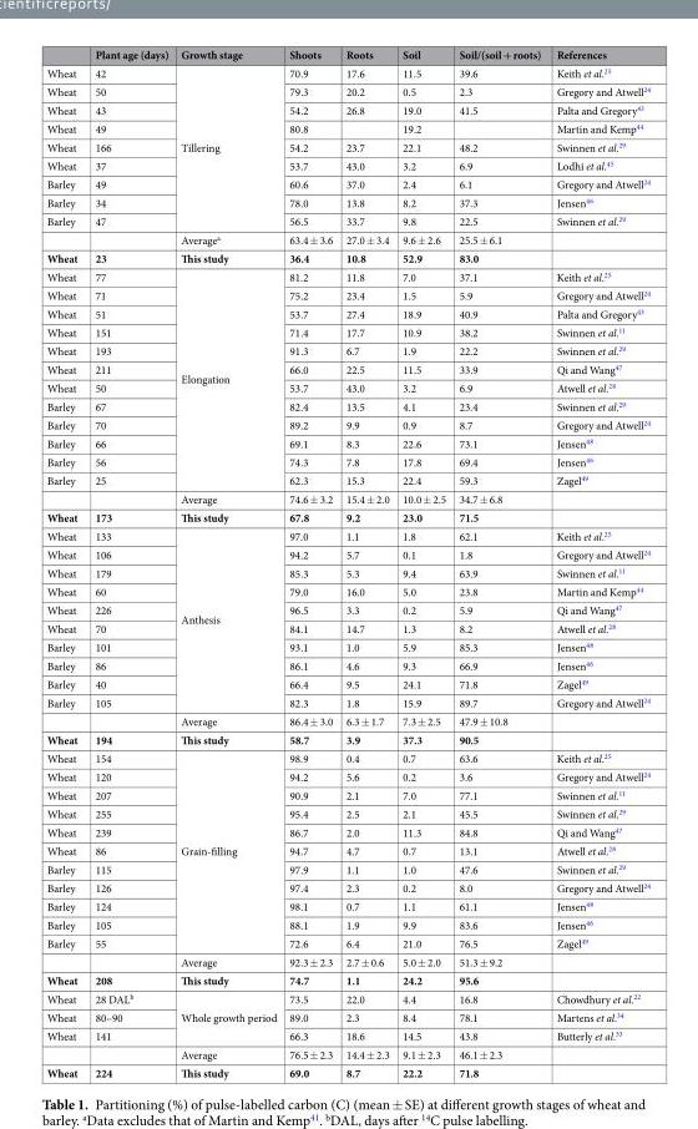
<table><thead><tr><td></td><td>Plant age (days)</td><td>Growth stage</td><td>Shoots</td><td>Roots</td><td>Soil</td><td>Soil/(soil + roots)</td><td>References</td></tr></thead><tbody><tr><td>Wheat</td><td>42</td><td rowspan="9">Tillering</td><td>70.9</td><td>17.6</td><td>11.5</td><td>39.6</td><td>Keith et al.<sup>25</sup></td></tr><tr><td>Wheat</td><td>50</td><td>79.3</td><td>20.2</td><td>0.5</td><td>2.3</td><td>Gregory and Atwell<sup>24</sup></td></tr><tr><td>Wheat</td><td>43</td><td>54.2</td><td>26.8</td><td>19.0</td><td>41.5</td><td>Palta and Gregory<sup>43</sup></td></tr><tr><td>Wheat</td><td>49</td><td>80.8</td><td></td><td>19.2</td><td></td><td>Martin and Kemp<sup>44</sup></td></tr><tr><td>Wheat</td><td>166</td><td>54.2</td><td>23.7</td><td>22.1</td><td>48.2</td><td>Swinnen et al.<sup>29</sup></td></tr><tr><td>Wheat</td><td>37</td><td>53.7</td><td>43.0</td><td>3.2</td><td>6.9</td><td>Lodhi et al.<sup>45</sup></td></tr><tr><td>Barley</td><td>49</td><td>60.6</td><td>37.0</td><td>2.4</td><td>6.1</td><td>Gregory and Atwell<sup>24</sup></td></tr><tr><td>Barley</td><td>34</td><td>78.0</td><td>13.8</td><td>8.2</td><td>37.3</td><td>Jensen<sup>46</sup></td></tr><tr><td rowspan="2">Barley</td><td>47</td><td>56.5</td><td>33.7</td><td>9.8</td><td>22.5</td><td>Swinnen et al.<sup>29</sup></td></tr><tr><td></td><td>Average<sup>a</sup></td><td>63.4 ± 3.6</td><td>27.0 ± 3.4</td><td>9.6 ± 2.6</td><td>25.5 ± 6.1</td><td></td></tr><tr><td>Wheat</td><td>23</td><td>This study</td><td>36.4</td><td>10.8</td><td>52.9</td><td>83.0</td><td></td></tr><tr><td>Wheat</td><td>77</td><td rowspan="12">Elongation</td><td>81.2</td><td>11.8</td><td>7.0</td><td>37.1</td><td>Keith et al.<sup>25</sup></td></tr><tr><td>Wheat</td><td>71</td><td>75.2</td><td>23.4</td><td>1.5</td><td>5.9</td><td>Gregory and Atwell<sup>24</sup></td></tr><tr><td>Wheat</td><td>51</td><td>53.7</td><td>27.4</td><td>18.9</td><td>40.9</td><td>Palta and Gregory<sup>43</sup></td></tr><tr><td>Wheat</td><td>151</td><td>71.4</td><td>17.7</td><td>10.9</td><td>38.2</td><td>Swinnen et al.<sup>11</sup></td></tr><tr><td>Wheat</td><td>193</td><td>91.3</td><td>6.7</td><td>1.9</td><td>22.2</td><td>Swinnen et al.<sup>29</sup></td></tr><tr><td>Wheat</td><td>211</td><td>66.0</td><td>22.5</td><td>11.5</td><td>33.9</td><td>Qi and Wang<sup>47</sup></td></tr><tr><td>Wheat</td><td>50</td><td>53.7</td><td>43.0</td><td>3.2</td><td>6.9</td><td>Atwell et al.<sup>28</sup></td></tr><tr><td>Barley</td><td>67</td><td>82.4</td><td>13.5</td><td>4.1</td><td>23.4</td><td>Swinnen et al.<sup>29</sup></td></tr><tr><td>Barley</td><td>70</td><td>89.2</td><td>9.9</td><td>0.9</td><td>8.7</td><td>Gregory and Atwell<sup>24</sup></td></tr><tr><td>Barley</td><td>66</td><td>69.1</td><td>8.3</td><td>22.6</td><td>73.1</td><td>Jensen<sup>48</sup></td></tr><tr><td>Barley</td><td>56</td><td>74.3</td><td>7.8</td><td>17.8</td><td>69.4</td><td>Jensen<sup>46</sup></td></tr><tr><td rowspan="2">Barley</td><td>25</td><td>62.3</td><td>15.3</td><td>22.4</td><td>59.3</td><td>Zagel<sup>49</sup></td></tr><tr><td></td><td>Average</td><td>74.6 ± 3.2</td><td>15.4 ± 2.0</td><td>10.0 ± 2.5</td><td>34.7 ± 6.8</td><td></td></tr><tr><td>Wheat</td><td>173</td><td>This study</td><td>67.8</td><td>9.2</td><td>23.0</td><td>71.5</td><td></td></tr><tr><td>Wheat</td><td>133</td><td rowspan="10">Anthesis</td><td>97.0</td><td>1.1</td><td>1.8</td><td>62.1</td><td>Keith et al.<sup>25</sup></td></tr><tr><td>Wheat</td><td>106</td><td>94.2</td><td>5.7</td><td>0.1</td><td>1.8</td><td>Gregory and Atwell<sup>24</sup></td></tr><tr><td>Wheat</td><td>179</td><td>85.3</td><td>5.3</td><td>9.4</td><td>63.9</td><td>Swinnen et al.<sup>11</sup></td></tr><tr><td>Wheat</td><td>60</td><td>79.0</td><td>16.0</td><td>5.0</td><td>23.8</td><td>Martin and Kemp<sup>44</sup></td></tr><tr><td>Wheat</td><td>226</td><td>96.5</td><td>3.3</td><td>0.2</td><td>5.9</td><td>Qi and Wang<sup>47</sup></td></tr><tr><td>Wheat</td><td>70</td><td>84.1</td><td>14.7</td><td>1.3</td><td>8.2</td><td>Atwell et al.<sup>28</sup></td></tr><tr><td>Barley</td><td>101</td><td>93.1</td><td>1.0</td><td>5.9</td><td>85.3</td><td>Jensen<sup>48</sup></td></tr><tr><td>Barley</td><td>86</td><td>86.1</td><td>4.6</td><td>9.3</td><td>66.9</td><td>Jensen<sup>46</sup></td></tr><tr><td>Barley</td><td>40</td><td>66.4</td><td>9.5</td><td>24.1</td><td>71.8</td><td>Zagel<sup>49</sup></td></tr><tr><td rowspan="2">Barley</td><td>105</td><td>82.3</td><td>1.8</td><td>15.9</td><td>89.7</td><td>Gregory and Atwell<sup>24</sup></td></tr><tr><td></td><td>Average</td><td>86.4 ± 3.0</td><td>6.3 ± 1.7</td><td>7.3 ± 2.5</td><td>47.9 ± 10.8</td><td></td></tr><tr><td>Wheat</td><td>194</td><td>This study</td><td>58.7</td><td>3.9</td><td>37.3</td><td>90.5</td><td></td></tr><tr><td>Wheat</td><td>154</td><td rowspan="11">Grain-filling</td><td>98.9</td><td>0.4</td><td>0.7</td><td>63.6</td><td>Keith et al.<sup>25</sup></td></tr><tr><td>Wheat</td><td>120</td><td>94.2</td><td>5.6</td><td>0.2</td><td>3.6</td><td>Gregory and Atwell<sup>24</sup></td></tr><tr><td>Wheat</td><td>207</td><td>90.9</td><td>2.1</td><td>7.0</td><td>77.1</td><td>Swinnen et al.<sup>11</sup></td></tr><tr><td>Wheat</td><td>255</td><td>95.4</td><td>2.5</td><td>2.1</td><td>45.5</td><td>Swinnen et al.<sup>29</sup></td></tr><tr><td>Wheat</td><td>239</td><td>86.7</td><td>2.0</td><td>11.3</td><td>84.8</td><td>Qi and Wang<sup>47</sup></td></tr><tr><td>Wheat</td><td>86</td><td>94.7</td><td>4.7</td><td>0.7</td><td>13.1</td><td>Atwell et al.<sup>28</sup></td></tr><tr><td>Barley</td><td>115</td><td>97.9</td><td>1.1</td><td>1.0</td><td>47.6</td><td>Swinnen et al.<sup>29</sup></td></tr><tr><td>Barley</td><td>126</td><td>97.4</td><td>2.3</td><td>0.2</td><td>8.0</td><td>Gregory and Atwell<sup>24</sup></td></tr><tr><td>Barley</td><td>124</td><td>98.1</td><td>0.7</td><td>1.1</td><td>61.1</td><td>Jensen<sup>48</sup></td></tr><tr><td>Barley</td><td>105</td><td>88.1</td><td>1.9</td><td>9.9</td><td>83.6</td><td>Jensen<sup>46</sup></td></tr><tr><td rowspan="2">Barley</td><td>55</td><td>72.6</td><td>6.4</td><td>21.0</td><td>76.5</td><td>Zagel<sup>49</sup></td></tr><tr><td></td><td>Average</td><td>92.3 ± 2.3</td><td>2.7 ± 0.6</td><td>5.0 ± 2.0</td><td>51.3 ± 9.2</td><td></td></tr><tr><td>Wheat</td><td>208</td><td>This study</td><td>74.7</td><td>1.1</td><td>24.2</td><td>95.6</td><td></td></tr><tr><td>Wheat</td><td>28 DAL<sup>b</sup></td><td rowspan="3">Whole growth period</td><td>73.5</td><td>22.0</td><td>4.4</td><td>16.8</td><td>Chowdhury et al.<sup>22</sup></td></tr><tr><td>Wheat</td><td>80–90</td><td>89.0</td><td>2.3</td><td>8.4</td><td>78.1</td><td>Martens et al.<sup>34</sup></td></tr><tr><td rowspan="2">Wheat</td><td>141</td><td>66.3</td><td>18.6</td><td>14.5</td><td>43.8</td><td>Butterly et al.<sup>33</sup></td></tr><tr><td></td><td>Average</td><td>76.5 ± 2.3</td><td>14.4 ± 2.3</td><td>9.1 ± 2.3</td><td>46.1 ± 2.3</td><td></td></tr><tr><td>Wheat</td><td>224</td><td>This study</td><td>69.0</td><td>8.7</td><td>22.2</td><td>71.8</td><td></td></tr></tbody></table>